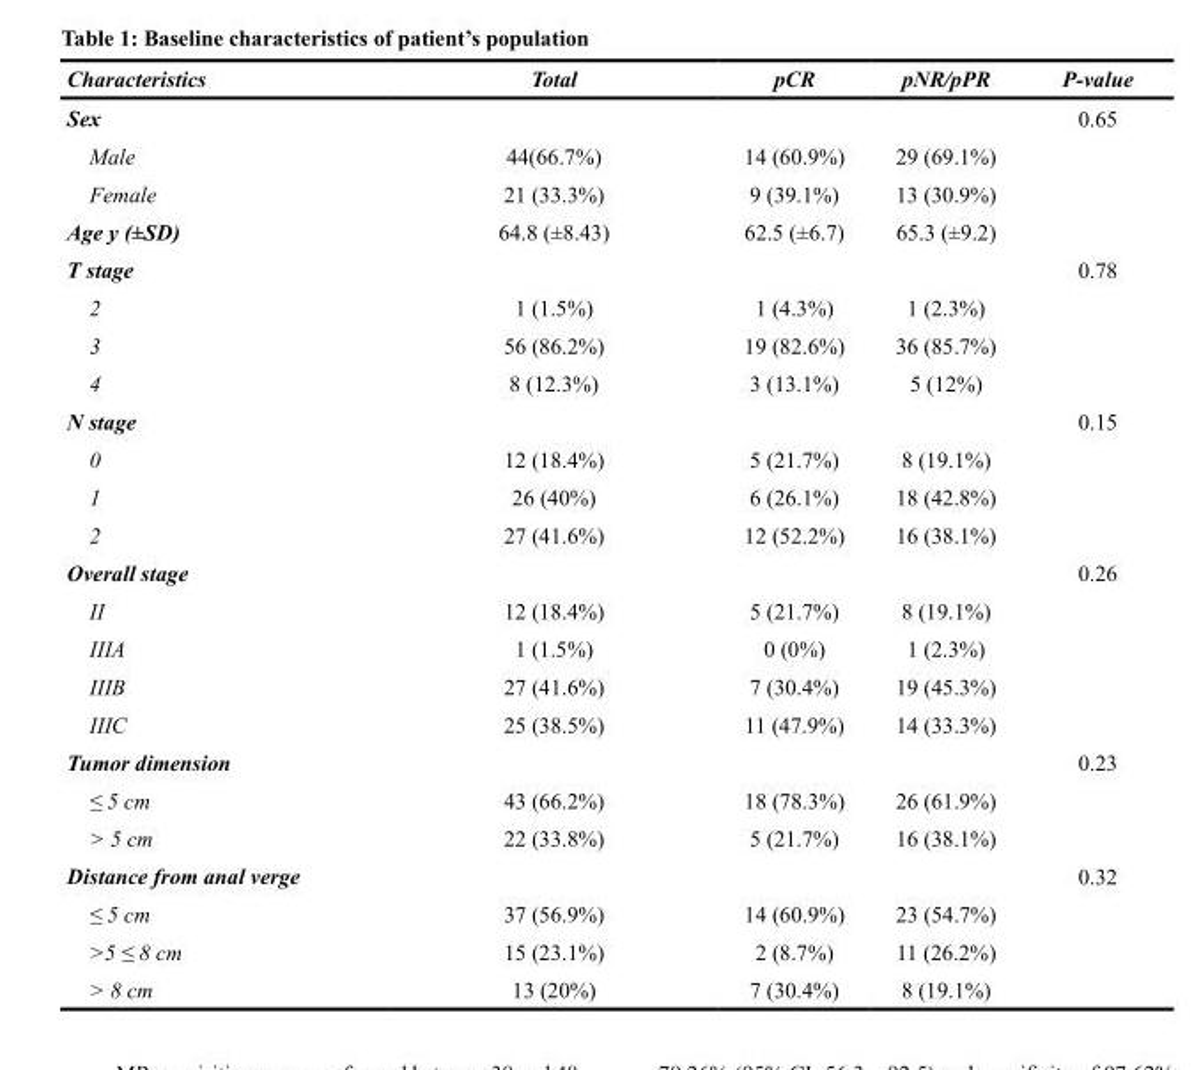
<table><thead><tr><td>Characteristics</td><td>Total</td><td>pCR</td><td>pNR/pPR</td><td>P-value</td></tr></thead><tbody><tr><td>Sex</td><td></td><td></td><td></td><td>0.65</td></tr><tr><td>Male</td><td>44(66.7%)</td><td>14 (60.9%)</td><td>29 (69.1%)</td><td></td></tr><tr><td>Female</td><td>21 (33.3%)</td><td>9 (39.1%)</td><td>13 (30.9%)</td><td></td></tr><tr><td>Age y (±SD)</td><td>64.8 (±8.43)</td><td>62.5 (±6.7)</td><td>65.3 (±9.2)</td><td></td></tr><tr><td>T stage</td><td></td><td></td><td></td><td>0.78</td></tr><tr><td>2</td><td>1 (1.5%)</td><td>1 (4.3%)</td><td>1 (2.3%)</td><td></td></tr><tr><td>3</td><td>56 (86.2%)</td><td>19 (82.6%)</td><td>36 (85.7%)</td><td></td></tr><tr><td>4</td><td>8 (12.3%)</td><td>3 (13.1%)</td><td>5 (12%)</td><td></td></tr><tr><td>N stage</td><td></td><td></td><td></td><td>0.15</td></tr><tr><td>0</td><td>12 (18.4%)</td><td>5 (21.7%)</td><td>8 (19.1%)</td><td></td></tr><tr><td>1</td><td>26 (40%)</td><td>6 (26.1%)</td><td>18 (42.8%)</td><td></td></tr><tr><td>2</td><td>27 (41.6%)</td><td>12 (52.2%)</td><td>16 (38.1%)</td><td></td></tr><tr><td>Overall stage</td><td></td><td></td><td></td><td>0.26</td></tr><tr><td>II</td><td>12 (18.4%)</td><td>5 (21.7%)</td><td>8 (19.1%)</td><td></td></tr><tr><td>IIIA</td><td>1 (1.5%)</td><td>0 (0%)</td><td>1 (2.3%)</td><td></td></tr><tr><td>IIIB</td><td>27 (41.6%)</td><td>7 (30.4%)</td><td>19 (45.3%)</td><td></td></tr><tr><td>IIIC</td><td>25 (38.5%)</td><td>11 (47.9%)</td><td>14 (33.3%)</td><td></td></tr><tr><td>Tumor dimension</td><td></td><td></td><td></td><td>0.23</td></tr><tr><td>≤ 5 cm</td><td>43 (66.2%)</td><td>18 (78.3%)</td><td>26 (61.9%)</td><td></td></tr><tr><td>&gt; 5 cm</td><td>22 (33.8%)</td><td>5 (21.7%)</td><td>16 (38.1%)</td><td></td></tr><tr><td>Distance from anal verge</td><td></td><td></td><td></td><td>0.32</td></tr><tr><td>≤ 5 cm</td><td>37 (56.9%)</td><td>14 (60.9%)</td><td>23 (54.7%)</td><td></td></tr><tr><td>&gt;5 ≤ 8 cm</td><td>15 (23.1%)</td><td>2 (8.7%)</td><td>11 (26.2%)</td><td></td></tr><tr><td>&gt; 8 cm</td><td>13 (20%)</td><td>7 (30.4%)</td><td>8 (19.1%)</td><td></td></tr></tbody></table>